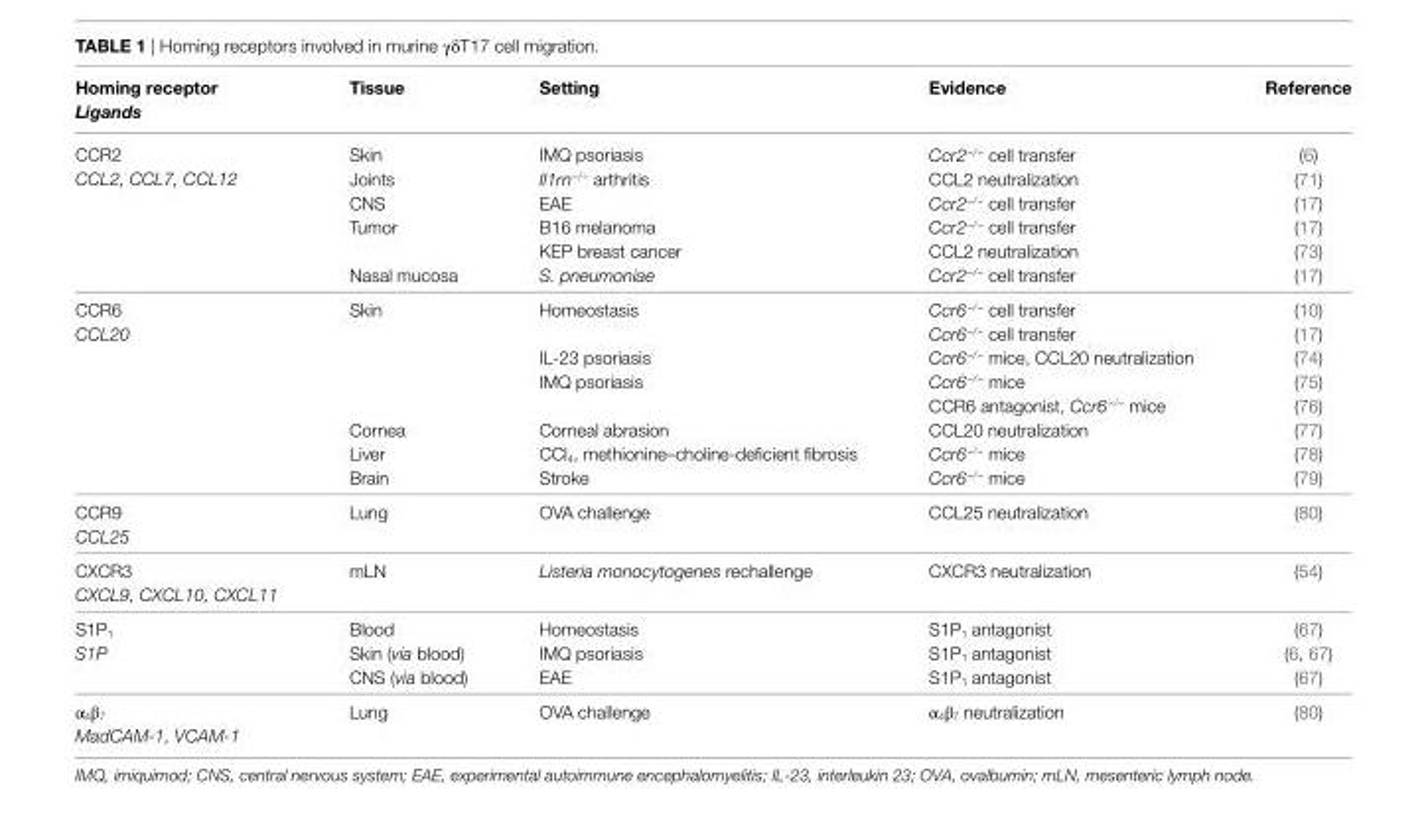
<table><thead><tr><td>Homing receptor Ligands</td><td>Tissue</td><td>Setting</td><td>evidence</td><td>Reference</td></tr></thead><tbody><tr><td rowspan="6">CCR2 CCL2, CCL7, CCL12</td><td>Skin</td><td>IMQ psoriasis</td><td>Ccr2<sup>−/−</sup> cell transfer</td><td>(6)</td></tr><tr><td>Joints</td><td>Il1rn<sup>−/−</sup> arthritis</td><td>CCL2 neutralization</td><td>(71)</td></tr><tr><td>CNS</td><td>EAE</td><td>Ccr2<sup>−/−</sup> cell transfer</td><td>(17)</td></tr><tr><td rowspan="2">Tumor</td><td>B16 melanoma</td><td>Ccr2<sup>−/−</sup> cell transfer</td><td>(17)</td></tr><tr><td>KEP breast cancer</td><td>CCL2 neutralization</td><td>(73)</td></tr><tr><td>Nasal mucosa</td><td>S. pneumoniae</td><td>Ccr2<sup>−/−</sup> cell transfer</td><td>(17)</td></tr><tr><td rowspan="8">CCR6 CCL20</td><td rowspan="5">Skin</td><td rowspan="2">Homeostasis</td><td>Ccr6<sup>−/−</sup> cell transfer</td><td>(10)</td></tr><tr><td>Ccr6<sup>−/−</sup> cell transfer</td><td>(17)</td></tr><tr><td>IL-23 psoriasis</td><td>Ccr6<sup>−/−</sup> mice, CCL20 neutralization</td><td>(74)</td></tr><tr><td rowspan="2">IMQ psoriasis</td><td>Ccr6<sup>−/−</sup> mice</td><td>(75)</td></tr><tr><td>CCR6 antagonist, Ccr6<sup>−/−</sup> mice</td><td>(76)</td></tr><tr><td>Cornea</td><td>Corneal abrasion</td><td>CCL20 neutralization</td><td>(77)</td></tr><tr><td>Liver</td><td>CCl<sub>4</sub>, methionine–choline-deficient fibrosis</td><td>Ccr6<sup>−/−</sup> mice</td><td>(78)</td></tr><tr><td>Brain</td><td>Stroke</td><td>Ccr6<sup>−/−</sup> mice</td><td>(79)</td></tr><tr><td>CCR9 CCL25</td><td>Lung</td><td>OVA challenge</td><td>CCL25 neutralization</td><td>(80)</td></tr><tr><td>CXCR3 CXCL9, CXCL10, CXCL11</td><td>mLN</td><td>Listeria monocytogenes rechallenge</td><td>CXCR3 neutralization</td><td>(54)</td></tr><tr><td rowspan="3">S1P<sub>1</sub> S1P</td><td>Blood</td><td>Homeostasis</td><td>S1P<sub>1</sub> antagonist</td><td>(67)</td></tr><tr><td>Skin (via blood)</td><td>IMQ psoriasis</td><td>S1P<sub>1</sub> antagonist</td><td>(6, 67)</td></tr><tr><td>CNS (via blood)</td><td>EAE</td><td>S1P<sub>1</sub> antagonist</td><td>(67)</td></tr><tr><td>α<sub>4</sub>β<sub>7</sub> MadCAM-1, VCAM-1</td><td>Lung</td><td>OVA challenge</td><td>α<sub>4</sub>β<sub>7</sub> neutralization</td><td>(80)</td></tr></tbody></table>